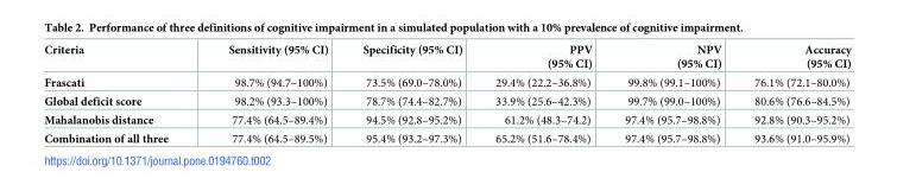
<table><thead><tr><td>Criteria</td><td>Sensitivity (95% CI)</td><td>Specificity (95% CI)</td><td>PPV (95% CI)</td><td>NPV (95% CI)</td><td>Accuracy (95% CI)</td></tr></thead><tbody><tr><td>Frascati</td><td>98.7% (94.7–100%)</td><td>73.5% (69.0–78.0%)</td><td>29.4% (22.2–36.8%)</td><td>99.8% (99.1–100%)</td><td>76.1% (72.1–80.0%)</td></tr><tr><td>Global deficit score</td><td>98.2% (93.3–100%)</td><td>78.7% (74.4–82.7%)</td><td>33.9% (25.6–42.3%)</td><td>99.7% (99.0–100%)</td><td>80.6% (76.6–84.5%)</td></tr><tr><td>Mahalanobis distance</td><td>77.4% (64.5–89.4%)</td><td>94.5% (92.8–95.2%)</td><td>61.2% (48.3–74.2)</td><td>97.4% (95.7–98.8%)</td><td>92.8% (90.3–95.2%)</td></tr><tr><td>Combination of all three</td><td>77.4% (64.5–89.5%)</td><td>95.4% (93.2–97.3%)</td><td>65.2% (51.6–78.4%)</td><td>97.4% (95.7–98.8%)</td><td>93.6% (91.0–95.9%)</td></tr></tbody></table>